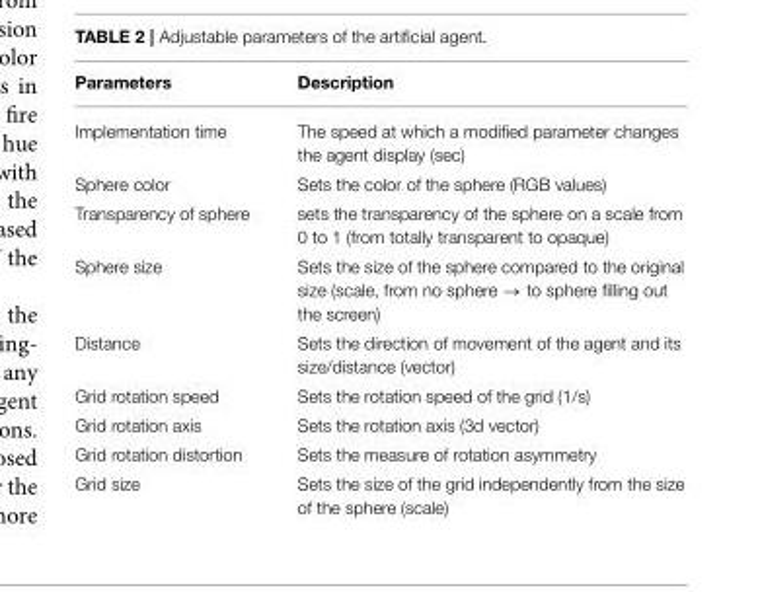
<table><thead><tr><td>Parameters</td><td>Description</td></tr></thead><tbody><tr><td>Implementation time</td><td>The speed at which a modified parameter changes the agent display (sec)</td></tr><tr><td>Sphere color</td><td>Sets the color of the sphere (RGB values)</td></tr><tr><td>Transparency of sphere</td><td>sets the transparency of the sphere on a scale from 0 to 1 (from totally transparent to opaque)</td></tr><tr><td>Sphere size</td><td>Sets the size of the sphere compared to the original size (scale, from no sphere → to sphere filling out the screen)</td></tr><tr><td>Distance</td><td>Sets the direction of movement of the agent and its size/distance (vector)</td></tr><tr><td>Grid rotation speed</td><td>Sets the rotation speed of the grid (1/s)</td></tr><tr><td>Grid rotation axis</td><td>Sets the rotation axis (3d vector)</td></tr><tr><td>Grid rotation distortion</td><td>Sets the measure of rotation asymmetry</td></tr><tr><td>Grid size</td><td>Sets the size of the grid independently from the size of the sphere (scale)</td></tr></tbody></table>